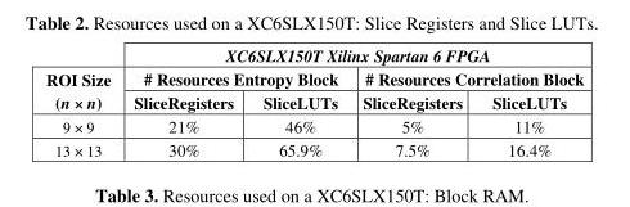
<table><thead><tr><td rowspan="3">ROI Size (n × n)</td><td colspan="4">XC6SLX150T Xilinx Spartan 6 FPGA</td></tr><tr><td colspan="2"># Resources Entropy Block</td><td colspan="2"># Resources Correlation Block</td></tr><tr><td>SliceRegisters</td><td>SliceLUTs</td><td>SliceRegisters</td><td>SliceLUTs</td></tr></thead><tbody><tr><td>9 × 9</td><td>21%</td><td>46%</td><td>5%</td><td>11%</td></tr><tr><td>13 × 13</td><td>30%</td><td>65.9%</td><td>7.5%</td><td>16.4%</td></tr></tbody></table>